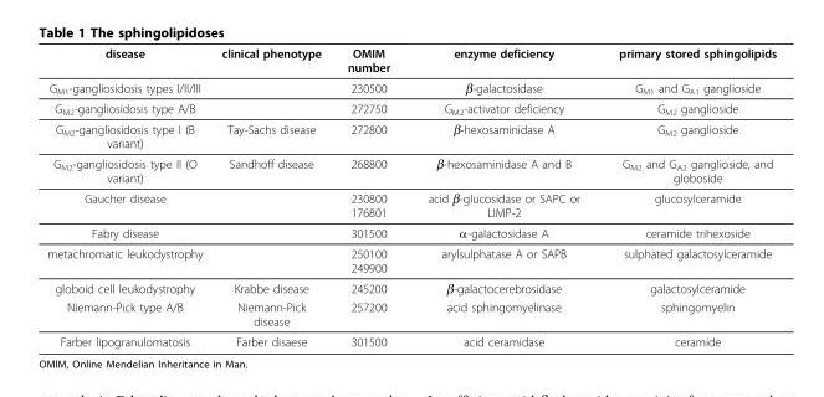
<table><thead><tr><td>disease</td><td>clinical phenotype</td><td>OMIM number</td><td>enzyme deficiency</td><td>primary stored sphingolipids</td></tr></thead><tbody><tr><td>G<sub>M1</sub>-gangliosidosis types I/II/III</td><td></td><td>230500</td><td>β-galactosidase</td><td>G<sub>M1</sub> and G<sub>A1</sub> ganglioside</td></tr><tr><td>G<sub>M2</sub>-gangliosidosis type A/B</td><td></td><td>272750</td><td>G<sub>M2</sub>-activator deficiency</td><td>G<sub>M2</sub> ganglioside</td></tr><tr><td>G<sub>M2</sub>-gangliosidosis type I (B variant)</td><td>Tay-Sachs disease</td><td>272800</td><td>β-hexosaminidase A</td><td>G<sub>M2</sub> ganglioside</td></tr><tr><td>G<sub>M2</sub>-gangliosidosis type II (O variant)</td><td>Sandhoff disease</td><td>268800</td><td>β-hexosaminidase A and B</td><td>G<sub>M2</sub> and G<sub>A2</sub> ganglioside, and globoside</td></tr><tr><td>Gaucher disease</td><td></td><td>230800 176801</td><td>acid β-glucosidase or SAPC or LIMP-2</td><td>glucosylceramide</td></tr><tr><td>Fabry disease</td><td></td><td>301500</td><td>α-galactosidase A</td><td>ceramide trihexoside</td></tr><tr><td>metachromatic leukodystrophy</td><td></td><td>250100 249900</td><td>arylsulphatase A or SAPB</td><td>sulphated galactosylceramide</td></tr><tr><td>globoid cell leukodystrophy</td><td>Krabbe disease</td><td>245200</td><td>β-galactocerebrosidase</td><td>galactosylceramide</td></tr><tr><td>Niemann-Pick type A/B</td><td>Niemann-Pick disease</td><td>257200</td><td>acid sphingomyelinase</td><td>sphingomyelin</td></tr><tr><td>Farber lipogranulomatosis</td><td>Farber disaese</td><td>301500</td><td>acid ceramidase</td><td>ceramide</td></tr></tbody></table>